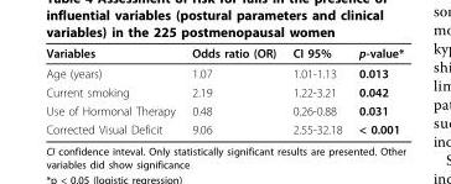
<table><thead><tr><td>Variables</td><td>Odds ratio (OR)</td><td>CI 95%</td><td>p-value*</td></tr></thead><tbody><tr><td>Age (years)</td><td>1.07</td><td>1.01-1.13</td><td>0.013</td></tr><tr><td>Current smoking</td><td>2.19</td><td>1.22-3.21</td><td>0.042</td></tr><tr><td>Use of Hormonal Therapy</td><td>0.48</td><td>0.26-0.88</td><td>0.031</td></tr><tr><td>Corrected Visual Deficit</td><td>9.06</td><td>2.55-32.18</td><td>&lt; 0.001</td></tr></tbody></table>